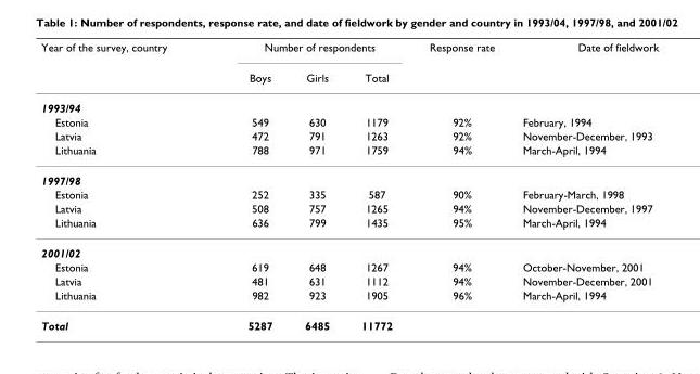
<table><thead><tr><td rowspan="2">Year of the survey, country</td><td colspan="3">Number of respondents</td><td rowspan="2">Response rate</td><td rowspan="2">Date of fieldwork</td></tr><tr><td>Boys</td><td>Girls</td><td>Total</td></tr></thead><tbody><tr><td colspan="6">1993/94</td></tr><tr><td>Estonia</td><td>549</td><td>630</td><td>1179</td><td>92%</td><td>February, 1994</td></tr><tr><td>Latvia</td><td>472</td><td>791</td><td>1263</td><td>92%</td><td>November-December, 1993</td></tr><tr><td>Lithuania</td><td>788</td><td>971</td><td>1759</td><td>94%</td><td>March-April, 1994</td></tr><tr><td colspan="6">1997/98</td></tr><tr><td>Estonia</td><td>252</td><td>335</td><td>587</td><td>90%</td><td>February-March, 1998</td></tr><tr><td>Latvia</td><td>508</td><td>757</td><td>1265</td><td>94%</td><td>November-December, 1997</td></tr><tr><td>Lithuania</td><td>636</td><td>799</td><td>1435</td><td>95%</td><td>March-April, 1994</td></tr><tr><td colspan="6">2001/02</td></tr><tr><td>Estonia</td><td>619</td><td>648</td><td>1267</td><td>94%</td><td>October-November, 2001</td></tr><tr><td>Latvia</td><td>481</td><td>631</td><td>1112</td><td>94%</td><td>November-December, 2001</td></tr><tr><td>Lithuania</td><td>982</td><td>923</td><td>1905</td><td>96%</td><td>March-April, 1994</td></tr><tr><td>Total</td><td>5287</td><td>6485</td><td>11772</td><td></td><td></td></tr></tbody></table>